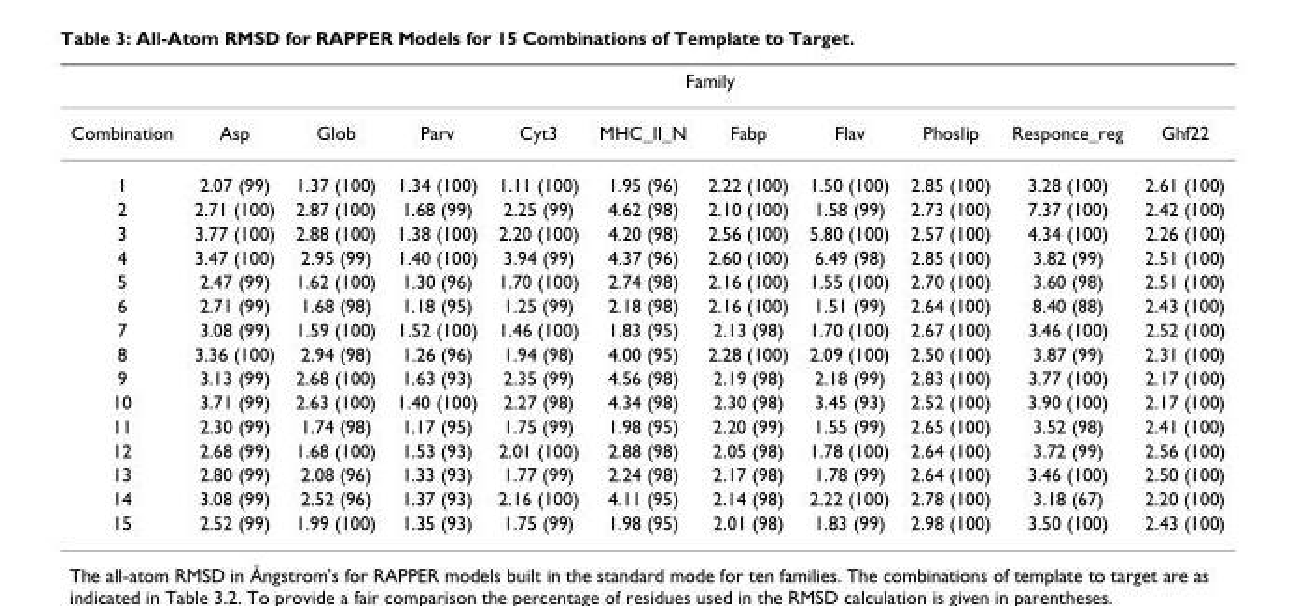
<table><thead><tr><td rowspan="2">Combination</td><td colspan="10">Family</td></tr><tr><td>Asp</td><td>Glob</td><td>Parv</td><td>Cyt3</td><td>MHC_II_N</td><td>Fabp</td><td>Flav</td><td>Phoslip</td><td>Responce_reg</td><td>Ghf22</td></tr></thead><tbody><tr><td>1</td><td>2.07 (99)</td><td>1.37 (100)</td><td>1.34 (100)</td><td>1.11 (100)</td><td>1.95 (96)</td><td>2.22 (100)</td><td>1.50 (100)</td><td>2.85 (100)</td><td>3.28 (100)</td><td>2.61 (100)</td></tr><tr><td>2</td><td>2.71 (100)</td><td>2.87 (100)</td><td>1.68 (99)</td><td>2.25 (99)</td><td>4.62 (98)</td><td>2.10 (100)</td><td>1.58 (99)</td><td>2.73 (100)</td><td>7.37 (100)</td><td>2.42 (100)</td></tr><tr><td>3</td><td>3.77 (100)</td><td>2.88 (100)</td><td>1.38 (100)</td><td>2.20 (100)</td><td>4.20 (98)</td><td>2.56 (100)</td><td>5.80 (100)</td><td>2.57 (100)</td><td>4.34 (100)</td><td>2.26 (100)</td></tr><tr><td>4</td><td>3.47 (100)</td><td>2.95 (99)</td><td>1.40 (100)</td><td>3.94 (99)</td><td>4.37 (96)</td><td>2.60 (100)</td><td>6.49 (98)</td><td>2.85 (100)</td><td>3.82 (99)</td><td>2.51 (100)</td></tr><tr><td>5</td><td>2.47 (99)</td><td>1.62 (100)</td><td>1.30 (96)</td><td>1.70 (100)</td><td>2.74 (98)</td><td>2.16 (100)</td><td>1.55 (100)</td><td>2.70 (100)</td><td>3.60 (98)</td><td>2.51 (100)</td></tr><tr><td>6</td><td>2.71 (99)</td><td>1.68 (98)</td><td>1.18 (95)</td><td>1.25 (99)</td><td>2.18 (98)</td><td>2.16 (100)</td><td>1.51 (99)</td><td>2.64 (100)</td><td>8.40 (88)</td><td>2.43 (100)</td></tr><tr><td>7</td><td>3.08 (99)</td><td>1.59 (100)</td><td>1.52 (100)</td><td>1.46 (100)</td><td>1.83 (95)</td><td>2.13 (98)</td><td>1.70 (100)</td><td>2.67 (100)</td><td>3.46 (100)</td><td>2.52 (100)</td></tr><tr><td>8</td><td>3.36 (100)</td><td>2.94 (98)</td><td>1.26 (96)</td><td>1.94 (98)</td><td>4.00 (95)</td><td>2.28 (100)</td><td>2.09 (100)</td><td>2.50 (100)</td><td>3.87 (99)</td><td>2.31 (100)</td></tr><tr><td>9</td><td>3.13 (99)</td><td>2.68 (100)</td><td>1.63 (93)</td><td>2.35 (99)</td><td>4.56 (98)</td><td>2.19 (98)</td><td>2.18 (99)</td><td>2.83 (100)</td><td>3.77 (100)</td><td>2.17 (100)</td></tr><tr><td>10</td><td>3.71 (99)</td><td>2.63 (100)</td><td>1.40 (100)</td><td>2.27 (98)</td><td>4.34 (98)</td><td>2.30 (98)</td><td>3.45 (93)</td><td>2.52 (100)</td><td>3.90 (100)</td><td>2.17 (100)</td></tr><tr><td>11</td><td>2.30 (99)</td><td>1.74 (98)</td><td>1.17 (95)</td><td>1.75 (99)</td><td>1.98 (95)</td><td>2.20 (99)</td><td>1.55 (99)</td><td>2.65 (100)</td><td>3.52 (98)</td><td>2.41 (100)</td></tr><tr><td>12</td><td>2.68 (99)</td><td>1.68 (100)</td><td>1.53 (93)</td><td>2.01 (100)</td><td>2.88 (98)</td><td>2.05 (98)</td><td>1.78 (100)</td><td>2.64 (100)</td><td>3.72 (99)</td><td>2.56 (100)</td></tr><tr><td>13</td><td>2.80 (99)</td><td>2.08 (96)</td><td>1.33 (93)</td><td>1.77 (99)</td><td>2.24 (98)</td><td>2.17 (98)</td><td>1.78 (99)</td><td>2.64 (100)</td><td>3.46 (100)</td><td>2.50 (100)</td></tr><tr><td>14</td><td>3.08 (99)</td><td>2.52 (96)</td><td>1.37 (93)</td><td>2.16 (100)</td><td>4.11 (95)</td><td>2.14 (98)</td><td>2.22 (100)</td><td>2.78 (100)</td><td>3.18 (67)</td><td>2.20 (100)</td></tr><tr><td>15</td><td>2.52 (99)</td><td>1.99 (100)</td><td>1.35 (93)</td><td>1.75 (99)</td><td>1.98 (95)</td><td>2.01 (98)</td><td>1.83 (99)</td><td>2.98 (100)</td><td>3.50 (100)</td><td>2.43 (100)</td></tr></tbody></table>